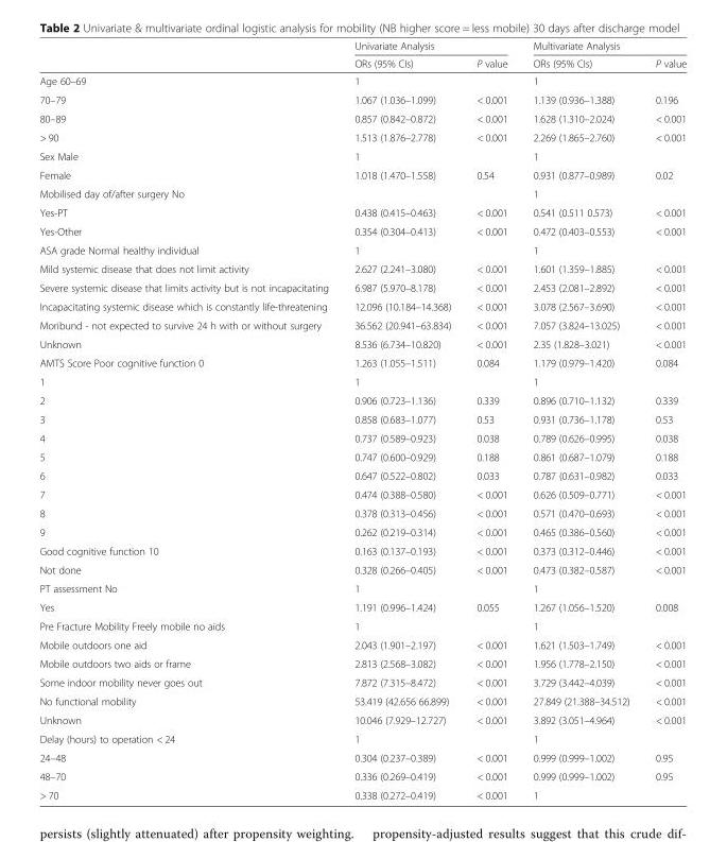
<table><thead><tr><td rowspan="2"></td><td colspan="2">Univariate Analysis</td><td colspan="2">Multivariate Analysis</td></tr><tr><td>ORs (95% CIs)</td><td>P value</td><td>ORs (95% CIs)</td><td>P value</td></tr></thead><tbody><tr><td>Age 60–69</td><td>1</td><td></td><td>1</td><td></td></tr><tr><td>70–79</td><td>1.067 (1.036–1.099)</td><td>&lt; 0.001</td><td>1.139 (0.936–1.388)</td><td>0.196</td></tr><tr><td>80–89</td><td>0.857 (0.842–0.872)</td><td>&lt; 0.001</td><td>1.628 (1.310–2.024)</td><td>&lt; 0.001</td></tr><tr><td>&gt; 90</td><td>1.513 (1.876–2.778)</td><td>&lt; 0.001</td><td>2.269 (1.865–2.760)</td><td>&lt; 0.001</td></tr><tr><td>Sex Male</td><td>1</td><td></td><td>1</td><td></td></tr><tr><td>Female</td><td>1.018 (1.470–1.558)</td><td>0.54</td><td>0.931 (0.877–0.989)</td><td>0.02</td></tr><tr><td>Mobilised day of/after surgery No</td><td></td><td></td><td>1</td><td></td></tr><tr><td>Yes-PT</td><td>0.438 (0.415–0.463)</td><td>&lt; 0.001</td><td>0.541 (0.511 0.573)</td><td>&lt; 0.001</td></tr><tr><td>Yes-Other</td><td>0.354 (0.304–0.413)</td><td>&lt; 0.001</td><td>0.472 (0.403–0.553)</td><td>&lt; 0.001</td></tr><tr><td>ASA grade Normal healthy individual</td><td>1</td><td></td><td>1</td><td></td></tr><tr><td>Mild systemic disease that does not limit activity</td><td>2.627 (2.241–3.080)</td><td>&lt; 0.001</td><td>1.601 (1.359–1.885)</td><td>&lt; 0.001</td></tr><tr><td>Severe systemic disease that limits activity but is not incapacitating</td><td>6.987 (5.970–8.178)</td><td>&lt; 0.001</td><td>2.453 (2.081–2.892)</td><td>&lt; 0.001</td></tr><tr><td>Incapacitating systemic disease which is constantly life-threatening</td><td>12.096 (10.184–14.368)</td><td>&lt; 0.001</td><td>3.078 (2.567–3.690)</td><td>&lt; 0.001</td></tr><tr><td>Moribund - not expected to survive 24 h with or without surgery</td><td>36.562 (20.941–63.834)</td><td>&lt; 0.001</td><td>7.057 (3.824–13.025)</td><td>&lt; 0.001</td></tr><tr><td>Unknown</td><td>8.536 (6.734–10.820)</td><td>&lt; 0.001</td><td>2.35 (1.828–3.021)</td><td>&lt; 0.001</td></tr><tr><td>AMTS Score Poor cognitive function 0</td><td>1.263 (1.055–1.511)</td><td>0.084</td><td>1.179 (0.979–1.420)</td><td>0.084</td></tr><tr><td>1</td><td>1</td><td></td><td>1</td><td></td></tr><tr><td>2</td><td>0.906 (0.723–1.136)</td><td>0.339</td><td>0.896 (0.710–1.132)</td><td>0.339</td></tr><tr><td>3</td><td>0.858 (0.683–1.077)</td><td>0.53</td><td>0.931 (0.736–1.178)</td><td>0.53</td></tr><tr><td>4</td><td>0.737 (0.589–0.923)</td><td>0.038</td><td>0.789 (0.626–0.995)</td><td>0.038</td></tr><tr><td>5</td><td>0.747 (0.600–0.929)</td><td>0.188</td><td>0.861 (0.687–1.079)</td><td>0.188</td></tr><tr><td>6</td><td>0.647 (0.522–0.802)</td><td>0.033</td><td>0.787 (0.631–0.982)</td><td>0.033</td></tr><tr><td>7</td><td>0.474 (0.388–0.580)</td><td>&lt; 0.001</td><td>0.626 (0.509–0.771)</td><td>&lt; 0.001</td></tr><tr><td>8</td><td>0.378 (0.313–0.456)</td><td>&lt; 0.001</td><td>0.571 (0.470–0.693)</td><td>&lt; 0.001</td></tr><tr><td>9</td><td>0.262 (0.219–0.314)</td><td>&lt; 0.001</td><td>0.465 (0.386–0.560)</td><td>&lt; 0.001</td></tr><tr><td>Good cognitive function 10</td><td>0.163 (0.137–0.193)</td><td>&lt; 0.001</td><td>0.373 (0.312–0.446)</td><td>&lt; 0.001</td></tr><tr><td>Not done</td><td>0.328 (0.266–0.405)</td><td>&lt; 0.001</td><td>0.473 (0.382–0.587)</td><td>&lt; 0.001</td></tr><tr><td>PT assessment No</td><td>1</td><td></td><td>1</td><td></td></tr><tr><td>Yes</td><td>1.191 (0.996–1.424)</td><td>0.055</td><td>1.267 (1.056–1.520)</td><td>0.008</td></tr><tr><td>Pre Fracture Mobility Freely mobile no aids</td><td>1</td><td></td><td>1</td><td></td></tr><tr><td>Mobile outdoors one aid</td><td>2.043 (1.901–2.197)</td><td>&lt; 0.001</td><td>1.621 (1.503–1.749)</td><td>&lt; 0.001</td></tr><tr><td>Mobile outdoors two aids or frame</td><td>2.813 (2.568–3.082)</td><td>&lt; 0.001</td><td>1.956 (1.778–2.150)</td><td>&lt; 0.001</td></tr><tr><td>Some indoor mobility never goes out</td><td>7.872 (7.315–8.472)</td><td>&lt; 0.001</td><td>3.729 (3.442–4.039)</td><td>&lt; 0.001</td></tr><tr><td>No functional mobility</td><td>53.419 (42.656 66.899)</td><td>&lt; 0.001</td><td>27.849 (21.388–34.512)</td><td>&lt; 0.001</td></tr><tr><td>Unknown</td><td>10.046 (7.929–12.727)</td><td>&lt; 0.001</td><td>3.892 (3.051–4.964)</td><td>&lt; 0.001</td></tr><tr><td>Delay (hours) to operation &lt; 24</td><td>1</td><td></td><td>1</td><td></td></tr><tr><td>24–48</td><td>0.304 (0.237–0.389)</td><td>&lt; 0.001</td><td>0.999 (0.999–1.002)</td><td>0.95</td></tr><tr><td>48–70</td><td>0.336 (0.269–0.419)</td><td>&lt; 0.001</td><td>0.999 (0.999–1.002)</td><td>0.95</td></tr><tr><td>&gt; 70</td><td>0.338 (0.272–0.419)</td><td>&lt; 0.001</td><td>1</td><td></td></tr></tbody></table>